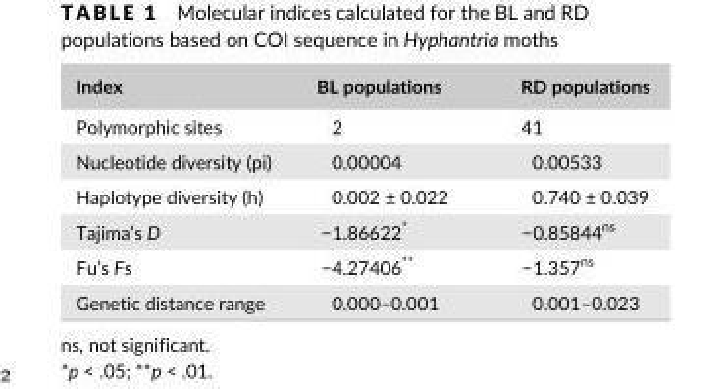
<table><thead><tr><td>Index</td><td>BL populations</td><td>RD populations</td></tr></thead><tbody><tr><td>Polymorphic sites</td><td>2</td><td>41</td></tr><tr><td>Nucleotide diversity (pi)</td><td>0.00004</td><td>0.00533</td></tr><tr><td>Haplotype diversity (h)</td><td>0.002 ± 0.022</td><td>0.740 ± 0.039</td></tr><tr><td>Tajima’s D</td><td>−1.86622*</td><td>−0.85844<sup>ns</sup></td></tr><tr><td>Fu’s Fs</td><td>−4.27406**</td><td>−1.357<sup>ns</sup></td></tr><tr><td>Genetic distance range</td><td>0.000–0.001</td><td>0.001–0.023</td></tr></tbody></table>